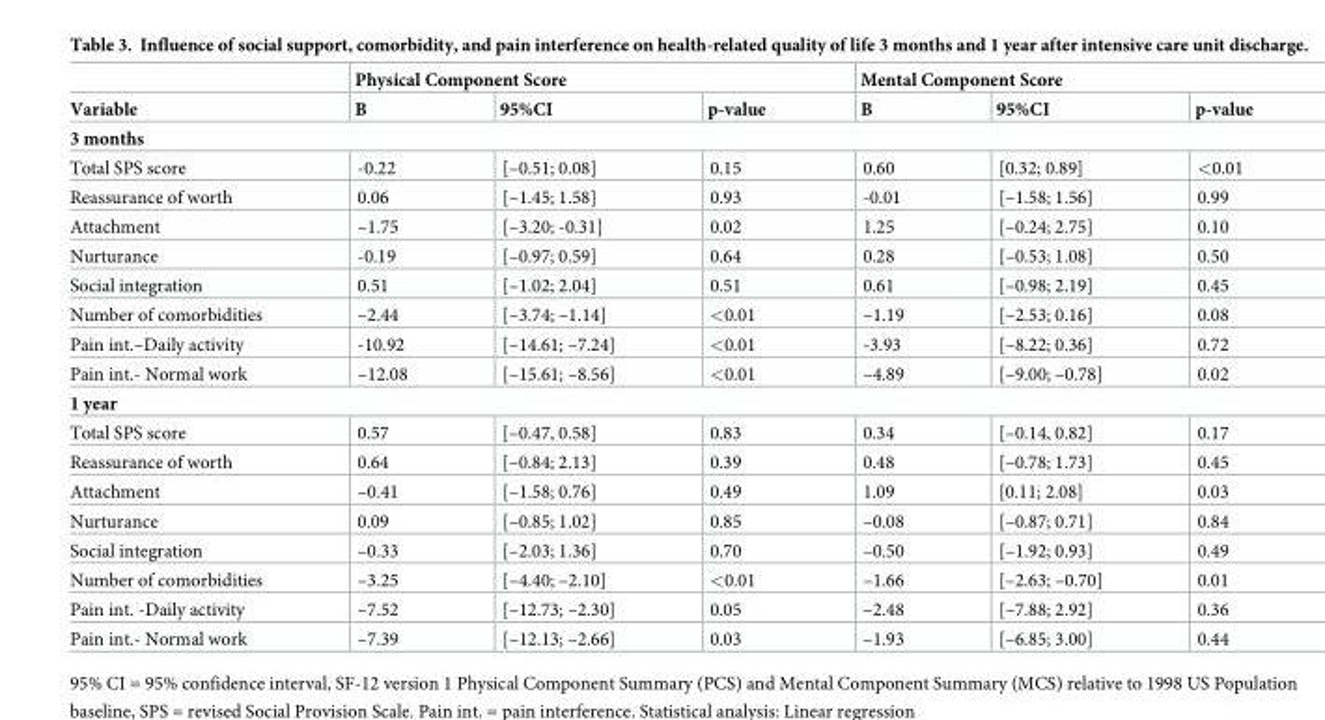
<table><thead><tr><td rowspan="2">Variable</td><td colspan="3">Physical Component Score</td><td colspan="3">Mental Component Score</td></tr><tr><td>B</td><td>95%CI</td><td>p-value</td><td>B</td><td>95%CI</td><td>p-value</td></tr></thead><tbody><tr><td colspan="7">3 months</td></tr><tr><td>Total SPS score</td><td>-0.22</td><td>[–0.51; 0.08]</td><td>0.15</td><td>0.60</td><td>[0.32; 0.89]</td><td>&lt;0.01</td></tr><tr><td>Reassurance of worth</td><td>0.06</td><td>[–1.45; 1.58]</td><td>0.93</td><td>-0.01</td><td>[–1.58; 1.56]</td><td>0.99</td></tr><tr><td>Attachment</td><td>–1.75</td><td>[–3.20; -0.31]</td><td>0.02</td><td>1.25</td><td>[–0.24; 2.75]</td><td>0.10</td></tr><tr><td>Nurturance</td><td>-0.19</td><td>[–0.97; 0.59]</td><td>0.64</td><td>0.28</td><td>[–0.53; 1.08]</td><td>0.50</td></tr><tr><td>Social integration</td><td>0.51</td><td>[–1.02; 2.04]</td><td>0.51</td><td>0.61</td><td>[–0.98; 2.19]</td><td>0.45</td></tr><tr><td>Number of comorbidities</td><td>–2.44</td><td>[–3.74; –1.14]</td><td>&lt;0.01</td><td>–1.19</td><td>[–2.53; 0.16]</td><td>0.08</td></tr><tr><td>Pain int.–Daily activity</td><td>-10.92</td><td>[–14.61; –7.24]</td><td>&lt;0.01</td><td>-3.93</td><td>[–8.22; 0.36]</td><td>0.72</td></tr><tr><td>Pain int.- Normal work</td><td>–12.08</td><td>[–15.61; –8.56]</td><td>&lt;0.01</td><td>–4.89</td><td>[–9.00; –0.78]</td><td>0.02</td></tr><tr><td colspan="7">1 year</td></tr><tr><td>Total SPS score</td><td>0.57</td><td>[–0.47, 0.58]</td><td>0.83</td><td>0.34</td><td>[–0.14, 0.82]</td><td>0.17</td></tr><tr><td>Reassurance of worth</td><td>0.64</td><td>[–0.84; 2.13]</td><td>0.39</td><td>0.48</td><td>[–0.78; 1.73]</td><td>0.45</td></tr><tr><td>Attachment</td><td>–0.41</td><td>[–1.58; 0.76]</td><td>0.49</td><td>1.09</td><td>[0.11; 2.08]</td><td>0.03</td></tr><tr><td>Nurturance</td><td>0.09</td><td>[–0.85; 1.02]</td><td>0.85</td><td>–0.08</td><td>[–0.87; 0.71]</td><td>0.84</td></tr><tr><td>Social integration</td><td>–0.33</td><td>[–2.03; 1.36]</td><td>0.70</td><td>–0.50</td><td>[–1.92; 0.93]</td><td>0.49</td></tr><tr><td>Number of comorbidities</td><td>–3.25</td><td>[–4.40; –2.10]</td><td>&lt;0.01</td><td>–1.66</td><td>[–2.63; –0.70]</td><td>0.01</td></tr><tr><td>Pain int. -Daily activity</td><td>–7.52</td><td>[–12.73; –2.30]</td><td>0.05</td><td>–2.48</td><td>[–7.88; 2.92]</td><td>0.36</td></tr><tr><td>Pain int.- Normal work</td><td>–7.39</td><td>[–12.13; –2.66]</td><td>0.03</td><td>–1.93</td><td>[–6.85; 3.00]</td><td>0.44</td></tr></tbody></table>